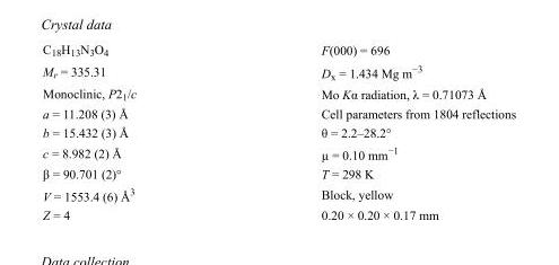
<table><tbody><tr><td>C<sub>18</sub>H<sub>13</sub>N<sub>3</sub>O<sub>4</sub></td><td>F(000) = 696</td></tr><tr><td>M<sub>r</sub> = 335.31</td><td>D<sub>x</sub> = 1.434 Mg m<sup>−3</sup></td></tr><tr><td>Monoclinic, P2<sub>1</sub>/c</td><td>Mo Kα radiation, λ = 0.71073 Å</td></tr><tr><td>a = 11.208 (3) Å</td><td>Cell parameters from 1804 reflections</td></tr><tr><td>b = 15.432 (3) Å</td><td>θ = 2.2–28.2°</td></tr><tr><td>c = 8.982 (2) Å</td><td>µ = 0.10 mm<sup>−1</sup></td></tr><tr><td>β = 90.701 (2)°</td><td>T = 298 K</td></tr><tr><td>V = 1553.4 (6) Å<sup>3</sup></td><td>Block, yellow</td></tr><tr><td>Z = 4</td><td>0.20 × 0.20 × 0.17 mm</td></tr></tbody></table>